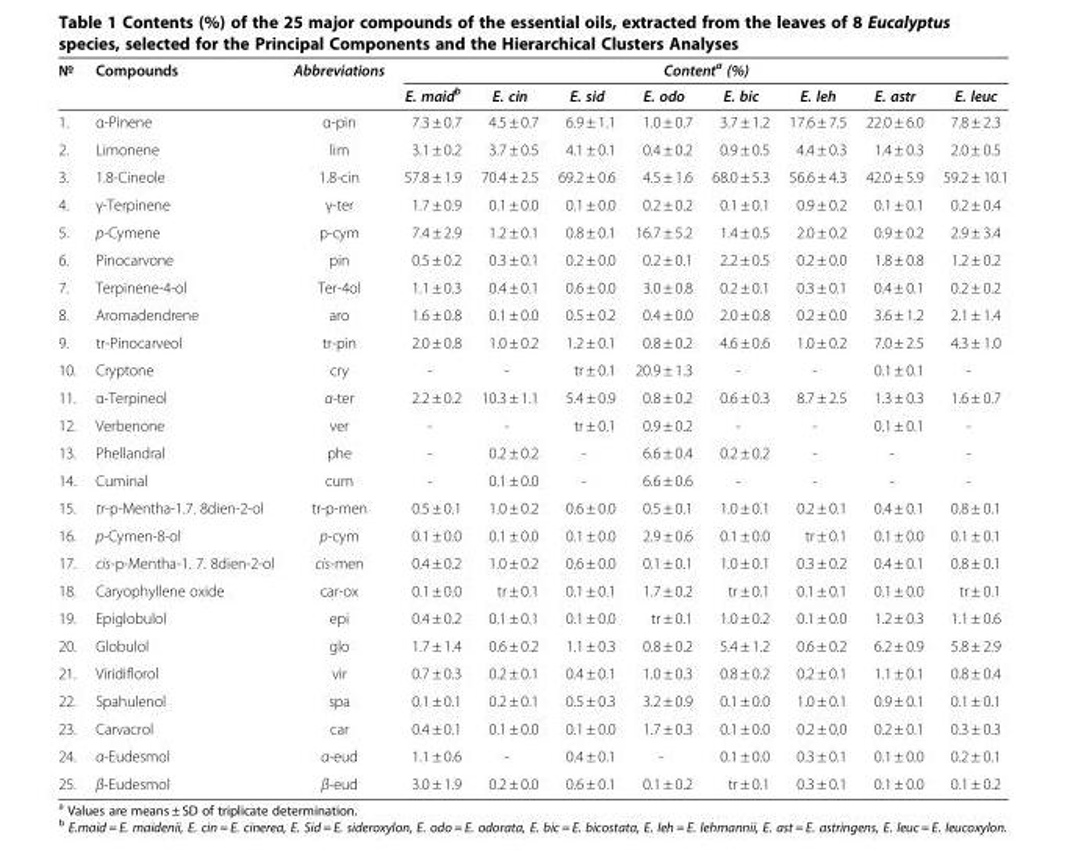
<table><thead><tr><td rowspan="2">№</td><td rowspan="2">Compounds</td><td rowspan="2">Abbreviations</td><td colspan="8">Content<sup>a</sup> (%)</td></tr><tr><td>E. maid<sup>b</sup></td><td>E. cin</td><td>E. sid</td><td>E. odo</td><td>E. bic</td><td>E. leh</td><td>E. astr</td><td>E. leuc</td></tr></thead><tbody><tr><td>1.</td><td>α-Pinene</td><td>α-pin</td><td>7.3 ± 0.7</td><td>4.5 ± 0.7</td><td>6.9 ± 1.1</td><td>1.0 ± 0.7</td><td>3.7 ± 1.2</td><td>17.6 ± 7.5</td><td>22.0 ± 6.0</td><td>7.8 ± 2.3</td></tr><tr><td>2.</td><td>Limonene</td><td>lim</td><td>3.1 ± 0.2</td><td>3.7 ± 0.5</td><td>4.1 ± 0.1</td><td>0.4 ± 0.2</td><td>0.9 ± 0.5</td><td>4.4 ± 0.3</td><td>1.4 ± 0.3</td><td>2.0 ± 0.5</td></tr><tr><td>3.</td><td>1.8-Cineole</td><td>1.8-cin</td><td>57.8 ± 1.9</td><td>70.4 ± 2.5</td><td>69.2 ± 0.6</td><td>4.5 ± 1.6</td><td>68.0 ± 5.3</td><td>56.6 ± 4.3</td><td>42.0 ± 5.9</td><td>59.2 ± 10.1</td></tr><tr><td>4.</td><td>γ-Terpinene</td><td>γ-ter</td><td>1.7 ± 0.9</td><td>0.1 ± 0.0</td><td>0.1 ± 0.0</td><td>0.2 ± 0.2</td><td>0.1 ± 0.1</td><td>0.9 ± 0.2</td><td>0.1 ± 0.1</td><td>0.2 ± 0.4</td></tr><tr><td>5.</td><td>p-Cymene</td><td>p-cym</td><td>7.4 ± 2.9</td><td>1.2 ± 0.1</td><td>0.8 ± 0.1</td><td>16.7 ± 5.2</td><td>1.4 ± 0.5</td><td>2.0 ± 0.2</td><td>0.9 ± 0.2</td><td>2.9 ± 3.4</td></tr><tr><td>6.</td><td>Pinocarvone</td><td>pin</td><td>0.5 ± 0.2</td><td>0.3 ± 0.1</td><td>0.2 ± 0.0</td><td>0.2 ± 0.1</td><td>2.2 ± 0.5</td><td>0.2 ± 0.0</td><td>1.8 ± 0.8</td><td>1.2 ± 0.2</td></tr><tr><td>7.</td><td>Terpinene-4-ol</td><td>Ter-4ol</td><td>1.1 ± 0.3</td><td>0.4 ± 0.1</td><td>0.6 ± 0.0</td><td>3.0 ± 0.8</td><td>0.2 ± 0.1</td><td>0.3 ± 0.1</td><td>0.4 ± 0.1</td><td>0.2 ± 0.2</td></tr><tr><td>8.</td><td>Aromadendrene</td><td>aro</td><td>1.6 ± 0.8</td><td>0.1 ± 0.0</td><td>0.5 ± 0.2</td><td>0.4 ± 0.0</td><td>2.0 ± 0.8</td><td>0.2 ± 0.0</td><td>3.6 ± 1.2</td><td>2.1 ± 1.4</td></tr><tr><td>9.</td><td>tr-Pinocarveol</td><td>tr-pin</td><td>2.0 ± 0.8</td><td>1.0 ± 0.2</td><td>1.2 ± 0.1</td><td>0.8 ± 0.2</td><td>4.6 ± 0.6</td><td>1.0 ± 0.2</td><td>7.0 ± 2.5</td><td>4.3 ± 1.0</td></tr><tr><td>10.</td><td>Cryptone</td><td>cry</td><td>-</td><td>-</td><td>tr ± 0.1</td><td>20.9 ± 1.3</td><td>-</td><td>-</td><td>0.1 ± 0.1</td><td>-</td></tr><tr><td>11.</td><td>α-Terpineol</td><td>α-ter</td><td>2.2 ± 0.2</td><td>10.3 ± 1.1</td><td>5.4 ± 0.9</td><td>0.8 ± 0.2</td><td>0.6 ± 0.3</td><td>8.7 ± 2.5</td><td>1.3 ± 0.3</td><td>1.6 ± 0.7</td></tr><tr><td>12.</td><td>Verbenone</td><td>ver</td><td>-</td><td>-</td><td>tr ± 0.1</td><td>0.9 ± 0.2</td><td>-</td><td>-</td><td>0.1 ± 0.1</td><td>-</td></tr><tr><td>13.</td><td>Phellandral</td><td>phe</td><td>-</td><td>0.2 ± 0.2</td><td>-</td><td>6.6 ± 0.4</td><td>0.2 ± 0.2</td><td>-</td><td>-</td><td>-</td></tr><tr><td>14.</td><td>Cuminal</td><td>cum</td><td>-</td><td>0.1 ± 0.0</td><td>-</td><td>6.6 ± 0.6</td><td>-</td><td>-</td><td>-</td><td>-</td></tr><tr><td>15.</td><td>tr-p-Mentha-1.7. 8dien-2-ol</td><td>tr-p-men</td><td>0.5 ± 0.1</td><td>1.0 ± 0.2</td><td>0.6 ± 0.0</td><td>0.5 ± 0.1</td><td>1.0 ± 0.1</td><td>0.2 ± 0.1</td><td>0.4 ± 0.1</td><td>0.8 ± 0.1</td></tr><tr><td>16.</td><td>p-Cymen-8-ol</td><td>p-cym</td><td>0.1 ± 0.0</td><td>0.1 ± 0.0</td><td>0.1 ± 0.0</td><td>2.9 ± 0.6</td><td>0.1 ± 0.0</td><td>tr ± 0.1</td><td>0.1 ± 0.0</td><td>0.1 ± 0.1</td></tr><tr><td>17.</td><td>cis-p-Mentha-1. 7. 8dien-2-ol</td><td>cis-men</td><td>0.4 ± 0.2</td><td>1.0 ± 0.2</td><td>0.6 ± 0.0</td><td>0.1 ± 0.1</td><td>1.0 ± 0.1</td><td>0.3 ± 0.2</td><td>0.4 ± 0.1</td><td>0.8 ± 0.1</td></tr><tr><td>18.</td><td>Caryophyllene oxide</td><td>car-ox</td><td>0.1 ± 0.0</td><td>tr ± 0.1</td><td>0.1 ± 0.1</td><td>1.7 ± 0.2</td><td>tr ± 0.1</td><td>0.1 ± 0.1</td><td>0.1 ± 0.0</td><td>tr ± 0.1</td></tr><tr><td>19.</td><td>Epiglobulol</td><td>epi</td><td>0.4 ± 0.2</td><td>0.1 ± 0.1</td><td>0.1 ± 0.0</td><td>tr ± 0.1</td><td>1.0 ± 0.2</td><td>0.1 ± 0.0</td><td>1.2 ± 0.3</td><td>1.1 ± 0.6</td></tr><tr><td>20.</td><td>Globulol</td><td>glo</td><td>1.7 ± 1.4</td><td>0.6 ± 0.2</td><td>1.1 ± 0.3</td><td>0.8 ± 0.2</td><td>5.4 ± 1.2</td><td>0.6 ± 0.2</td><td>6.2 ± 0.9</td><td>5.8 ± 2.9</td></tr><tr><td>21.</td><td>Viridiflorol</td><td>vir</td><td>0.7 ± 0.3</td><td>0.2 ± 0.1</td><td>0.4 ± 0.1</td><td>1.0 ± 0.3</td><td>0.8 ± 0.2</td><td>0.2 ± 0.1</td><td>1.1 ± 0.1</td><td>0.8 ± 0.4</td></tr><tr><td>22.</td><td>Spahulenol</td><td>spa</td><td>0.1 ± 0.1</td><td>0.2 ± 0.1</td><td>0.5 ± 0.3</td><td>3.2 ± 0.9</td><td>0.1 ± 0.0</td><td>1.0 ± 0.1</td><td>0.9 ± 0.1</td><td>0.1 ± 0.1</td></tr><tr><td>23.</td><td>Carvacrol</td><td>car</td><td>0.4 ± 0.1</td><td>0.1 ± 0.0</td><td>0.1 ± 0.0</td><td>1.7 ± 0.3</td><td>0.1 ± 0.0</td><td>0.2 ± 0.0</td><td>0.2 ± 0.1</td><td>0.3 ± 0.3</td></tr><tr><td>24.</td><td>α-Eudesmol</td><td>α-eud</td><td>1.1 ± 0.6</td><td>-</td><td>0.4 ± 0.1</td><td>-</td><td>0.1 ± 0.0</td><td>0.3 ± 0.1</td><td>0.1 ± 0.0</td><td>0.2 ± 0.1</td></tr><tr><td>25.</td><td>β-Eudesmol</td><td>β-eud</td><td>3.0 ± 1.9</td><td>0.2 ± 0.0</td><td>0.6 ± 0.1</td><td>0.1 ± 0.2</td><td>tr ± 0.1</td><td>0.3 ± 0.1</td><td>0.1 ± 0.0</td><td>0.1 ± 0.2</td></tr></tbody></table>